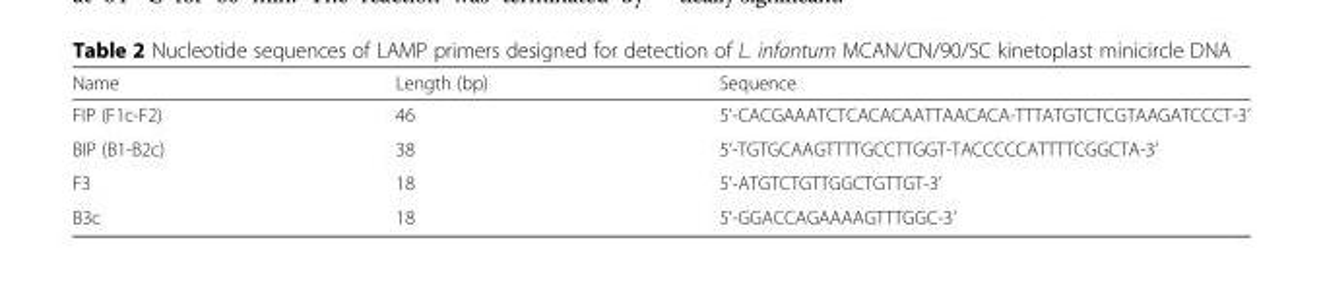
<table><thead><tr><td>Name</td><td>Length (bp)</td><td>Sequence</td></tr></thead><tbody><tr><td>FIP (F1c-F2)</td><td>46</td><td>5’-CACGAAATCTCACACAATTAACACA-TTTATGTCTCGTAAGATCCCT-3’</td></tr><tr><td>BIP (B1-B2c)</td><td>38</td><td>5’-TGTGCAAGTTTTGCCTTGGT-TACCCCCATTTTCGGCTA-3’</td></tr><tr><td>F3</td><td>18</td><td>5’-ATGTCTGTTGGCTGTTGT-3’</td></tr><tr><td>B3c</td><td>18</td><td>5’-GGACCAGAAAAGTTTGGC-3’</td></tr></tbody></table>